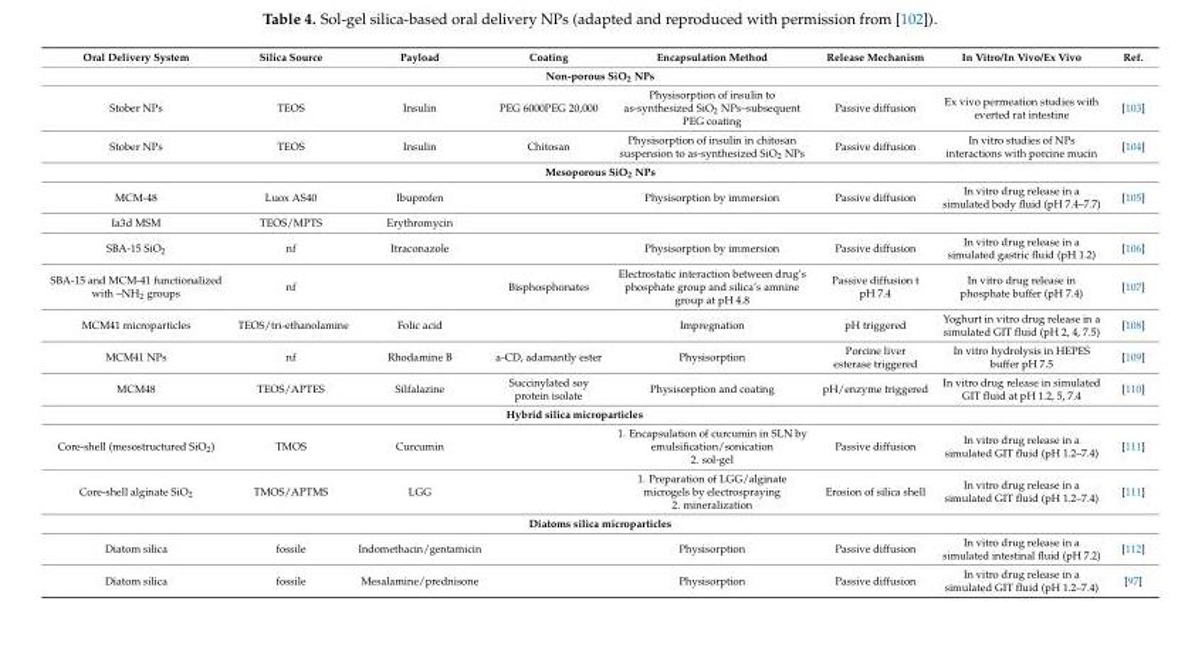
<table><thead><tr><td>Oral Delivery System</td><td>Silica Source</td><td>Payload</td><td>Coating</td><td>Encapsulation Method</td><td>Release Mechanism</td><td>In Vitro/In Vivo/Ex Vivo</td><td>Ref.</td></tr></thead><tbody><tr><td colspan="8">Non-porous SiO<sub>2</sub> NPs</td></tr><tr><td>Stober NPs</td><td>TEOS</td><td>Insulin</td><td>PEG 6000PEG 20,000</td><td>Physisorption of insulin to as-synthesized SiO<sub>2</sub> NPs–subsequent PEG coating</td><td>Passive diffusion</td><td>Ex vivo permeation studies with everted rat intestine</td><td>[103]</td></tr><tr><td>Stober NPs</td><td>TEOS</td><td>Insulin</td><td>Chitosan</td><td>Physisorption of insulin in chitosan suspension to as-synthesized SiO<sub>2</sub> NPs</td><td>Passive diffusion</td><td>In vitro studies of NPs interactions with porcine mucin</td><td>[104]</td></tr><tr><td colspan="8">Mesoporous SiO<sub>2</sub> NPs</td></tr><tr><td>MCM-48</td><td>Luox AS40</td><td>Ibuprofen</td><td></td><td>Physisorption by immersion</td><td>Passive diffusion</td><td>In vitro drug release in a simulated body fluid (pH 7.4–7.7)</td><td>[105]</td></tr><tr><td>Ia3d MSM</td><td>TEOS/MPTS</td><td>Erythromycin</td><td></td><td></td><td></td><td></td><td></td></tr><tr><td>SBA-15 SiO<sub>2</sub></td><td>nf</td><td>Itraconazole</td><td></td><td>Physisorption by immersion</td><td>Passive diffusion</td><td>In vitro drug release in a simulated gastric fluid (pH 1.2)</td><td>[106]</td></tr><tr><td>SBA-15 and MCM-41 functionalized with –NH<sub>2</sub> groups</td><td>nf</td><td></td><td>Bisphosphonates</td><td>Electrostatic interaction between drug’s phosphate group and silica’s amnine group at pH 4.8</td><td>Passive diffusion t pH 7.4</td><td>In vitro drug release in phosphate buffer (pH 7.4)</td><td>[107]</td></tr><tr><td>MCM41 microparticles</td><td>TEOS/tri-ethanolamine</td><td>Folic acid</td><td></td><td>Impregnation</td><td>pH triggered</td><td>Yoghurt in vitro drug release in a simulated GIT fluid (pH 2, 4, 7.5)</td><td>[108]</td></tr><tr><td>MCM41 NPs</td><td>nf</td><td>Rhodamine B</td><td>a-CD, adamantly ester</td><td>Physisorption</td><td>Porcine liver esterase triggered</td><td>In vitro hydrolysis in HEPES buffer pH 7.5</td><td>[109]</td></tr><tr><td>MCM48</td><td>TEOS/APTES</td><td>Silfalazine</td><td>Succinylated soy protein isolate</td><td>Physisorption and coating</td><td>pH/enzyme triggered</td><td>In vitro drug release in simulated GIT fluid at pH 1.2, 5, 7.4</td><td>[110]</td></tr><tr><td colspan="8">Hybrid silica microparticles</td></tr><tr><td>Core-shell (mesostructured SiO<sub>2</sub>)</td><td>TMOS</td><td>Curcumin</td><td></td><td>1. Encapsulation of curcumin in SLN by emulsification/sonication 2. sol-gel</td><td>Passive diffusion</td><td>In vitro drug release in a simulated GIT fluid (pH 1.2–7.4)</td><td>[111]</td></tr><tr><td>Core-shell alginate SiO<sub>2</sub></td><td>TMOS/APTMS</td><td>LGG</td><td></td><td>1. Preparation of LGG/alginate microgels by electrospraying 2. mineralization</td><td>Erosion of silica shell</td><td>In vitro drug release in a simulated GIT fluid (pH 1.2–7.4)</td><td>[111]</td></tr><tr><td colspan="8">Diatoms silica microparticles</td></tr><tr><td>Diatom silica</td><td>fossile</td><td>Indomethacin/gentamicin</td><td></td><td>Physisorption</td><td>Passive diffusion</td><td>In vitro drug release in a simulated intestinal fluid (pH 7.2)</td><td>[112]</td></tr><tr><td>Diatom silica</td><td>fossile</td><td>Mesalamine/prednisone</td><td></td><td>Physisorption</td><td>Passive diffusion</td><td>In vitro drug release in a simulated GIT fluid (pH 1.2–7.4)</td><td>[97]</td></tr></tbody></table>